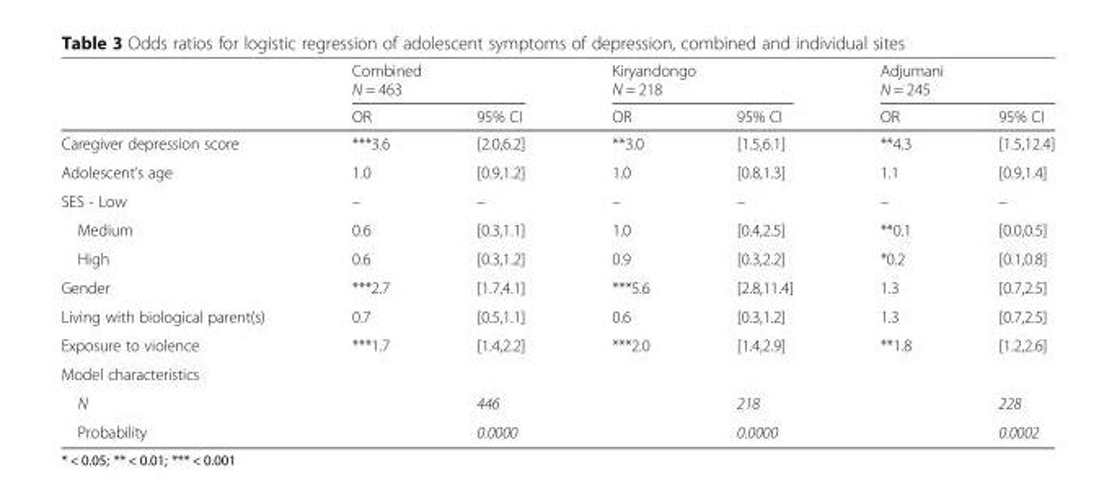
<table><thead><tr><td rowspan="2"></td><td colspan="2">Combined N = 463</td><td colspan="2">Kiryandongo N = 218</td><td colspan="2">Adjumani N = 245</td></tr><tr><td>OR</td><td>95% CI</td><td>OR</td><td>95% CI</td><td>OR</td><td>95% CI</td></tr></thead><tbody><tr><td>Caregiver depression score</td><td>***3.6</td><td>[2.0,6.2]</td><td>**3.0</td><td>[1.5,6.1]</td><td>**4.3</td><td>[1.5,12.4]</td></tr><tr><td>Adolescent’s age</td><td>1.0</td><td>[0.9,1.2]</td><td>1.0</td><td>[0.8,1.3]</td><td>1.1</td><td>[0.9,1.4]</td></tr><tr><td>SES - Low</td><td>–</td><td>–</td><td>–</td><td>–</td><td>–</td><td>–</td></tr><tr><td>Medium</td><td>0.6</td><td>[0.3,1.1]</td><td>1.0</td><td>[0.4,2.5]</td><td>**0.1</td><td>[0.0,0.5]</td></tr><tr><td>High</td><td>0.6</td><td>[0.3,1.2]</td><td>0.9</td><td>[0.3,2.2]</td><td>*0.2</td><td>[0.1,0.8]</td></tr><tr><td>Gender</td><td>***2.7</td><td>[1.7,4.1]</td><td>***5.6</td><td>[2.8,11.4]</td><td>1.3</td><td>[0.7,2.5]</td></tr><tr><td>Living with biological parent(s)</td><td>0.7</td><td>[0.5,1.1]</td><td>0.6</td><td>[0.3,1.2]</td><td>1.3</td><td>[0.7,2.5]</td></tr><tr><td>Exposure to violence</td><td>***1.7</td><td>[1.4,2.2]</td><td>***2.0</td><td>[1.4,2.9]</td><td>**1.8</td><td>[1.2,2.6]</td></tr><tr><td colspan="7">Model characteristics</td></tr><tr><td>N</td><td></td><td>446</td><td></td><td>218</td><td></td><td>228</td></tr><tr><td>Probability</td><td></td><td>0.0000</td><td></td><td>0.0000</td><td></td><td>0.0002</td></tr></tbody></table>